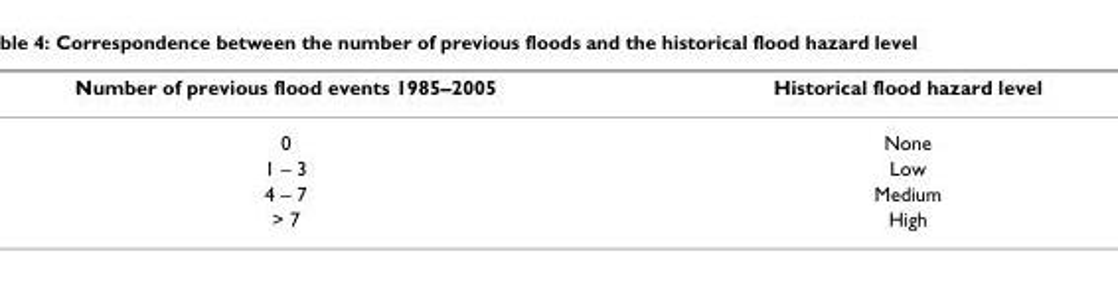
<table><thead><tr><td>Number of previous flood events 1985–2005</td><td>Historical flood hazard level</td></tr></thead><tbody><tr><td>0</td><td>None</td></tr><tr><td>1 – 3</td><td>Low</td></tr><tr><td>4 – 7</td><td>Medium</td></tr><tr><td>&gt; 7</td><td>High</td></tr></tbody></table>